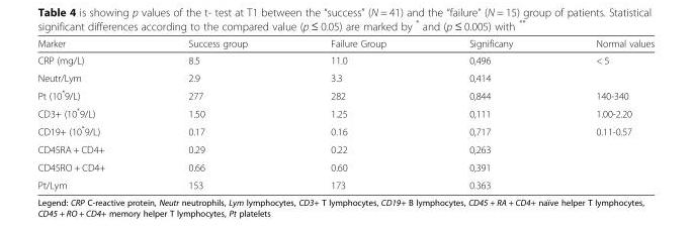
<table><thead><tr><td>Marker</td><td>Success group</td><td>Failure Group</td><td>Significany</td><td>Normal values</td></tr></thead><tbody><tr><td>CRP (mg/L)</td><td>8.5</td><td>11.0</td><td>0,496</td><td>&lt; 5</td></tr><tr><td>Neutr/Lym</td><td>2.9</td><td>3.3</td><td>0,414</td><td></td></tr><tr><td>Pt (10*9/L)</td><td>277</td><td>282</td><td>0,844</td><td>140-340</td></tr><tr><td>CD3+ (10*9/L)</td><td>1.50</td><td>1.25</td><td>0,111</td><td>1.00-2.20</td></tr><tr><td>CD19+ (10*9/L)</td><td>0.17</td><td>0.16</td><td>0,717</td><td>0.11-0.57</td></tr><tr><td>CD45RA + CD4+</td><td>0.29</td><td>0.22</td><td>0,263</td><td></td></tr><tr><td>CD45RO + CD4+</td><td>0.66</td><td>0.60</td><td>0,391</td><td></td></tr><tr><td>Pt/Lym</td><td>153</td><td>173</td><td>0.363</td><td></td></tr></tbody></table>